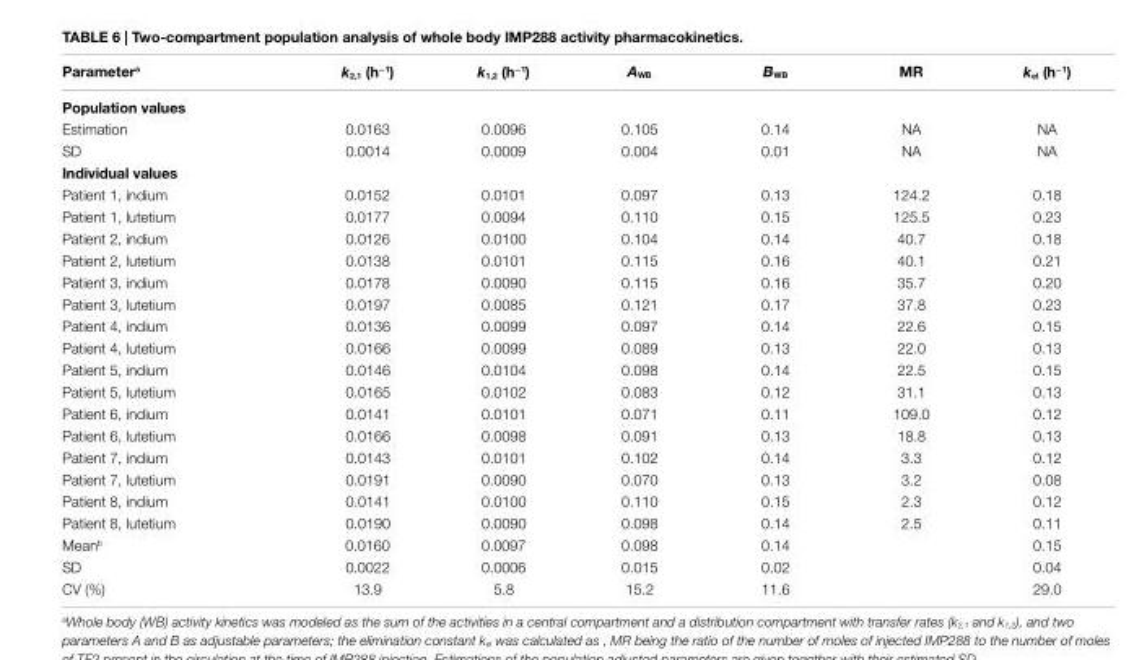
<table><thead><tr><td>Parameter<sup>a</sup></td><td>k<sub>2,1</sub> (h<sup>−1</sup>)</td><td>k<sub>1,2</sub> (h<sup>−1</sup>)</td><td>A<sub>WB</sub></td><td>B<sub>WB</sub></td><td>Mr</td><td>k<sub>el</sub> (h<sup>−1</sup>)</td></tr></thead><tbody><tr><td colspan="7">Population values</td></tr><tr><td>Estimation</td><td>0.0163</td><td>0.0096</td><td>0.105</td><td>0.14</td><td>NA</td><td>NA</td></tr><tr><td>SD</td><td>0.0014</td><td>0.0009</td><td>0.004</td><td>0.01</td><td>NA</td><td>NA</td></tr><tr><td colspan="7">individual values</td></tr><tr><td>Patient 1, indium</td><td>0.0152</td><td>0.0101</td><td>0.097</td><td>0.13</td><td>124.2</td><td>0.18</td></tr><tr><td>Patient 1, lutetium</td><td>0.0177</td><td>0.0094</td><td>0.110</td><td>0.15</td><td>125.5</td><td>0.23</td></tr><tr><td>Patient 2, indium</td><td>0.0126</td><td>0.0100</td><td>0.104</td><td>0.14</td><td>40.7</td><td>0.18</td></tr><tr><td>Patient 2, lutetium</td><td>0.0138</td><td>0.0101</td><td>0.115</td><td>0.16</td><td>40.1</td><td>0.21</td></tr><tr><td>Patient 3, indium</td><td>0.0178</td><td>0.0090</td><td>0.115</td><td>0.16</td><td>35.7</td><td>0.20</td></tr><tr><td>Patient 3, lutetium</td><td>0.0197</td><td>0.0085</td><td>0.121</td><td>0.17</td><td>37.8</td><td>0.23</td></tr><tr><td>Patient 4, indium</td><td>0.0136</td><td>0.0099</td><td>0.097</td><td>0.14</td><td>22.6</td><td>0.15</td></tr><tr><td>Patient 4, lutetium</td><td>0.0166</td><td>0.0099</td><td>0.089</td><td>0.13</td><td>22.0</td><td>0.13</td></tr><tr><td>Patient 5, indium</td><td>0.0146</td><td>0.0104</td><td>0.098</td><td>0.14</td><td>22.5</td><td>0.15</td></tr><tr><td>Patient 5, lutetium</td><td>0.0165</td><td>0.0102</td><td>0.083</td><td>0.12</td><td>31.1</td><td>0.13</td></tr><tr><td>Patient 6, indium</td><td>0.0141</td><td>0.0101</td><td>0.071</td><td>0.11</td><td>109.0</td><td>0.12</td></tr><tr><td>Patient 6, lutetium</td><td>0.0166</td><td>0.0098</td><td>0.091</td><td>0.13</td><td>18.8</td><td>0.13</td></tr><tr><td>Patient 7, indium</td><td>0.0143</td><td>0.0101</td><td>0.102</td><td>0.14</td><td>3.3</td><td>0.12</td></tr><tr><td>Patient 7, lutetium</td><td>0.0191</td><td>0.0090</td><td>0.070</td><td>0.13</td><td>3.2</td><td>0.08</td></tr><tr><td>Patient 8, indium</td><td>0.0141</td><td>0.0100</td><td>0.110</td><td>0.15</td><td>2.3</td><td>0.12</td></tr><tr><td>Patient 8, lutetium</td><td>0.0190</td><td>0.0090</td><td>0.098</td><td>0.14</td><td>2.5</td><td>0.11</td></tr><tr><td>Mean<sup>b</sup></td><td>0.0160</td><td>0.0097</td><td>0.098</td><td>0.14</td><td></td><td>0.15</td></tr><tr><td>SD</td><td>0.0022</td><td>0.0006</td><td>0.015</td><td>0.02</td><td></td><td>0.04</td></tr><tr><td>CV (%)</td><td>13.9</td><td>5.8</td><td>15.2</td><td>11.6</td><td></td><td>29.0</td></tr></tbody></table>